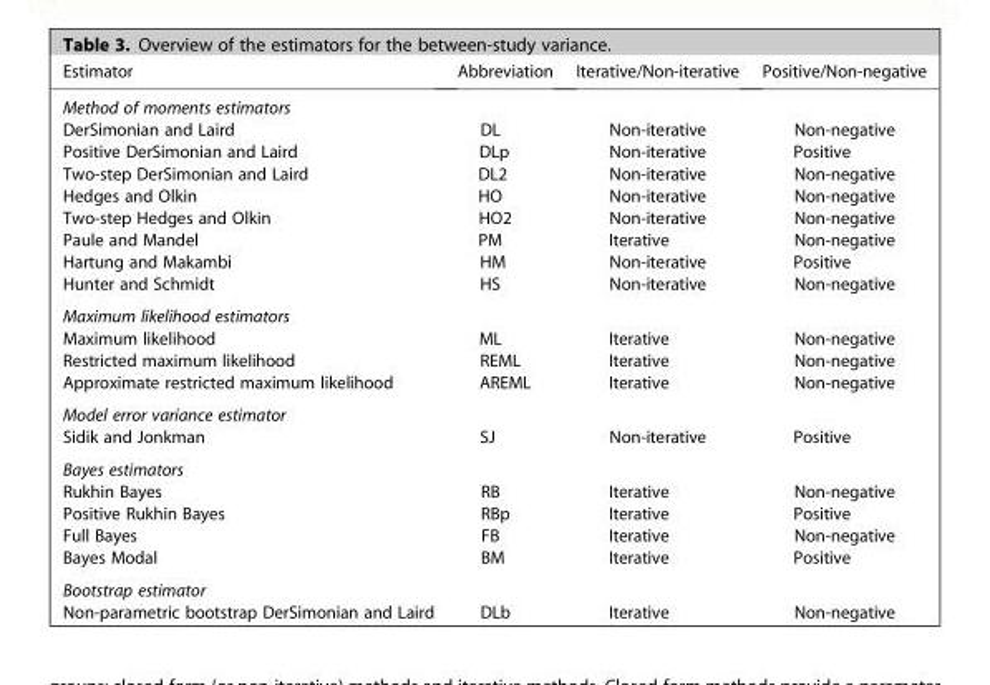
<table><thead><tr><td>Estimator</td><td>Abbreviation</td><td>Iterative/Non-iterative</td><td>Positive/Non-negative</td></tr></thead><tbody><tr><td colspan="4">Method of moments estimators</td></tr><tr><td>DerSimonian and Laird</td><td>DL</td><td>Non-iterative</td><td>Non-negative</td></tr><tr><td>Positive DerSimonian and Laird</td><td>DLp</td><td>Non-iterative</td><td>Positive</td></tr><tr><td>Two-step DerSimonian and Laird</td><td>DL2</td><td>Non-iterative</td><td>Non-negative</td></tr><tr><td>Hedges and Olkin</td><td>HO</td><td>Non-iterative</td><td>Non-negative</td></tr><tr><td>Two-step Hedges and Olkin</td><td>HO2</td><td>Non-iterative</td><td>Non-negative</td></tr><tr><td>Paule and Mandel</td><td>PM</td><td>Iterative</td><td>Non-negative</td></tr><tr><td>Hartung and Makambi</td><td>HM</td><td>Non-iterative</td><td>Positive</td></tr><tr><td>Hunter and Schmidt</td><td>HS</td><td>Non-iterative</td><td>Non-negative</td></tr><tr><td colspan="4">Maximum likelihood estimators</td></tr><tr><td>Maximum likelihood</td><td>ML</td><td>Iterative</td><td>Non-negative</td></tr><tr><td>Restricted maximum likelihood</td><td>REML</td><td>Iterative</td><td>Non-negative</td></tr><tr><td>Approximate restricted maximum likelihood</td><td>AREML</td><td>Iterative</td><td>Non-negative</td></tr><tr><td colspan="4">Model error variance estimator</td></tr><tr><td>Sidik and Jonkman</td><td>SJ</td><td>Non-iterative</td><td>Positive</td></tr><tr><td colspan="4">Bayes estimators</td></tr><tr><td>Rukhin Bayes</td><td>RB</td><td>Iterative</td><td>Non-negative</td></tr><tr><td>Positive Rukhin Bayes</td><td>RBp</td><td>Iterative</td><td>Positive</td></tr><tr><td>Full Bayes</td><td>FB</td><td>Iterative</td><td>Non-negative</td></tr><tr><td>Bayes Modal</td><td>BM</td><td>Iterative</td><td>Positive</td></tr><tr><td colspan="4">Bootstrap estimator</td></tr><tr><td>Non-parametric bootstrap DerSimonian and Laird</td><td>DLb</td><td>Iterative</td><td>Non-negative</td></tr></tbody></table>